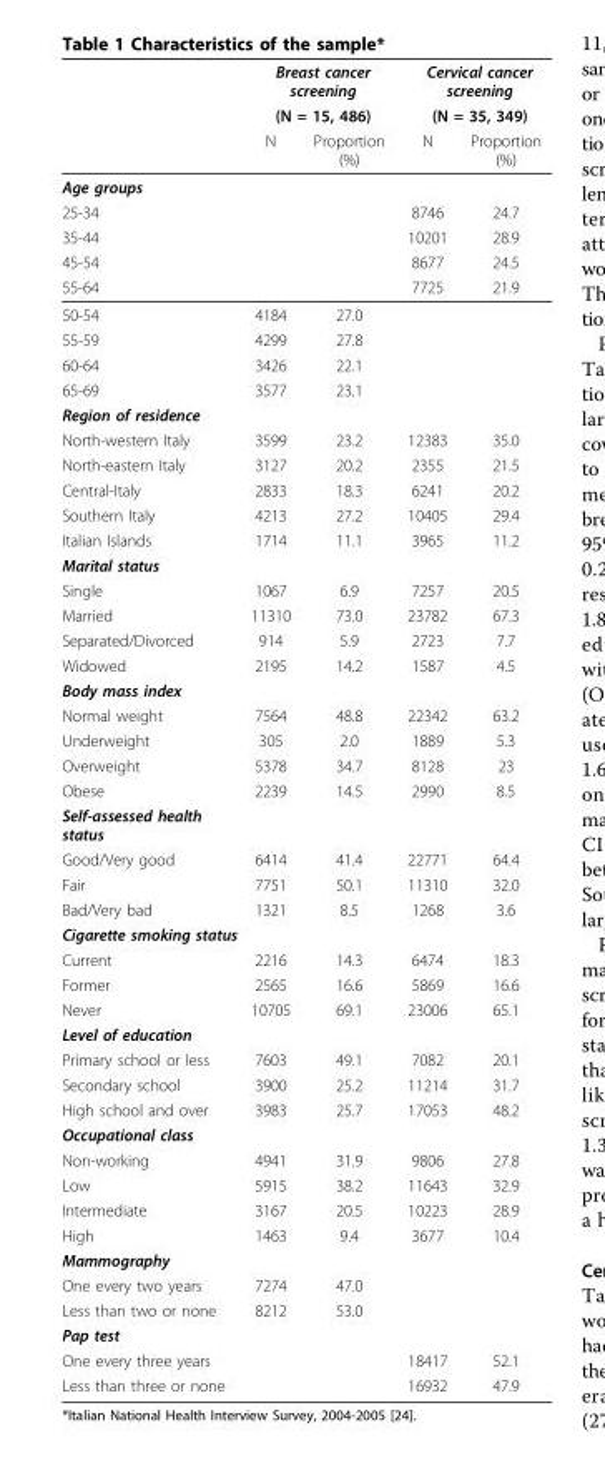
<table><thead><tr><td rowspan="3"></td><td rowspan="2" colspan="2">Breast cancer screening (N = 15, 486)</td><td rowspan="2" colspan="2">Cervical cancer screening (N = 35, 349)</td></tr><tr></tr><tr><td>N</td><td>Proportion (%)</td><td>N</td><td>Proportion (%)</td></tr></thead><tbody><tr><td colspan="5">Age groups</td></tr><tr><td>25-34</td><td></td><td></td><td>8746</td><td>24.7</td></tr><tr><td>35-44</td><td></td><td></td><td>10201</td><td>28.9</td></tr><tr><td>45-54</td><td></td><td></td><td>8677</td><td>24.5</td></tr><tr><td>55-64</td><td></td><td></td><td>7725</td><td>21.9</td></tr><tr><td>50-54</td><td>4184</td><td>27.0</td><td></td><td></td></tr><tr><td>55-59</td><td>4299</td><td>27.8</td><td></td><td></td></tr><tr><td>60-64</td><td>3426</td><td>22.1</td><td></td><td></td></tr><tr><td>65-69</td><td>3577</td><td>23.1</td><td></td><td></td></tr><tr><td colspan="5">Region of residence</td></tr><tr><td>North-western Italy</td><td>3599</td><td>23.2</td><td>12383</td><td>35.0</td></tr><tr><td>North-eastern Italy</td><td>3127</td><td>20.2</td><td>2355</td><td>21.5</td></tr><tr><td>Central-Italy</td><td>2833</td><td>18.3</td><td>6241</td><td>20.2</td></tr><tr><td>Southern Italy</td><td>4213</td><td>27.2</td><td>10405</td><td>29.4</td></tr><tr><td>Italian Islands</td><td>1714</td><td>11.1</td><td>3965</td><td>11.2</td></tr><tr><td colspan="5">Marital status</td></tr><tr><td>Single</td><td>1067</td><td>6.9</td><td>7257</td><td>20.5</td></tr><tr><td>Married</td><td>11310</td><td>73.0</td><td>23782</td><td>67.3</td></tr><tr><td>Separated/Divorced</td><td>914</td><td>5.9</td><td>2723</td><td>7.7</td></tr><tr><td>Widowed</td><td>2195</td><td>14.2</td><td>1587</td><td>4.5</td></tr><tr><td colspan="5">Body mass index</td></tr><tr><td>Normal weight</td><td>7564</td><td>48.8</td><td>22342</td><td>63.2</td></tr><tr><td>Underweight</td><td>305</td><td>2.0</td><td>1889</td><td>5.3</td></tr><tr><td>Overweight</td><td>5378</td><td>34.7</td><td>8128</td><td>23</td></tr><tr><td>Obese</td><td>2239</td><td>14.5</td><td>2990</td><td>8.5</td></tr><tr><td colspan="5">Self-assessed health status</td></tr><tr><td>Good/Very good</td><td>6414</td><td>41.4</td><td>22771</td><td>64.4</td></tr><tr><td>Fair</td><td>7751</td><td>50.1</td><td>11310</td><td>32.0</td></tr><tr><td>Bad/Very bad</td><td>1321</td><td>8.5</td><td>1268</td><td>3.6</td></tr><tr><td colspan="5">Cigarette smoking status</td></tr><tr><td>Current</td><td>2216</td><td>14.3</td><td>6474</td><td>18.3</td></tr><tr><td>Former</td><td>2565</td><td>16.6</td><td>5869</td><td>16.6</td></tr><tr><td>Never</td><td>10705</td><td>69.1</td><td>23006</td><td>65.1</td></tr><tr><td colspan="5">Level of education</td></tr><tr><td>Primary school or less</td><td>7603</td><td>49.1</td><td>7082</td><td>20.1</td></tr><tr><td>Secondary school</td><td>3900</td><td>25.2</td><td>11214</td><td>31.7</td></tr><tr><td>High school and over</td><td>3983</td><td>25.7</td><td>17053</td><td>48.2</td></tr><tr><td colspan="5">Occupational class</td></tr><tr><td>Non-working</td><td>4941</td><td>31.9</td><td>9806</td><td>27.8</td></tr><tr><td>Low</td><td>5915</td><td>38.2</td><td>11643</td><td>32.9</td></tr><tr><td>Intermediate</td><td>3167</td><td>20.5</td><td>10223</td><td>28.9</td></tr><tr><td>High</td><td>1463</td><td>9.4</td><td>3677</td><td>10.4</td></tr><tr><td colspan="5">Mammography</td></tr><tr><td>One every two years</td><td>7274</td><td>47.0</td><td></td><td></td></tr><tr><td>Less than two or none</td><td>8212</td><td>53.0</td><td></td><td></td></tr><tr><td colspan="5">Pap test</td></tr><tr><td>One every three years</td><td></td><td></td><td>18417</td><td>52.1</td></tr><tr><td>Less than three or none</td><td></td><td></td><td>16932</td><td>47.9</td></tr></tbody></table>